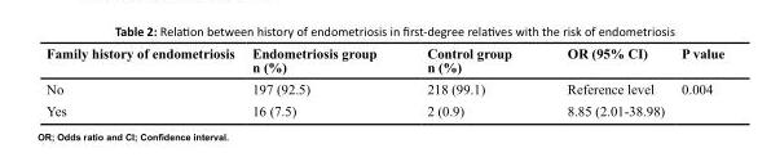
<table><thead><tr><td>Family history of endometriosis</td><td>Endometriosis group n (%)</td><td>Control group n (%)</td><td>OR (95% CI)</td><td>P value</td></tr></thead><tbody><tr><td>No</td><td>197 (92.5)</td><td>218 (99.1)</td><td>Reference level</td><td rowspan="2">0.004</td></tr><tr><td>Yes</td><td>16 (7.5)</td><td>2 (0.9)</td><td>8.85 (2.01-38.98)</td></tr></tbody></table>